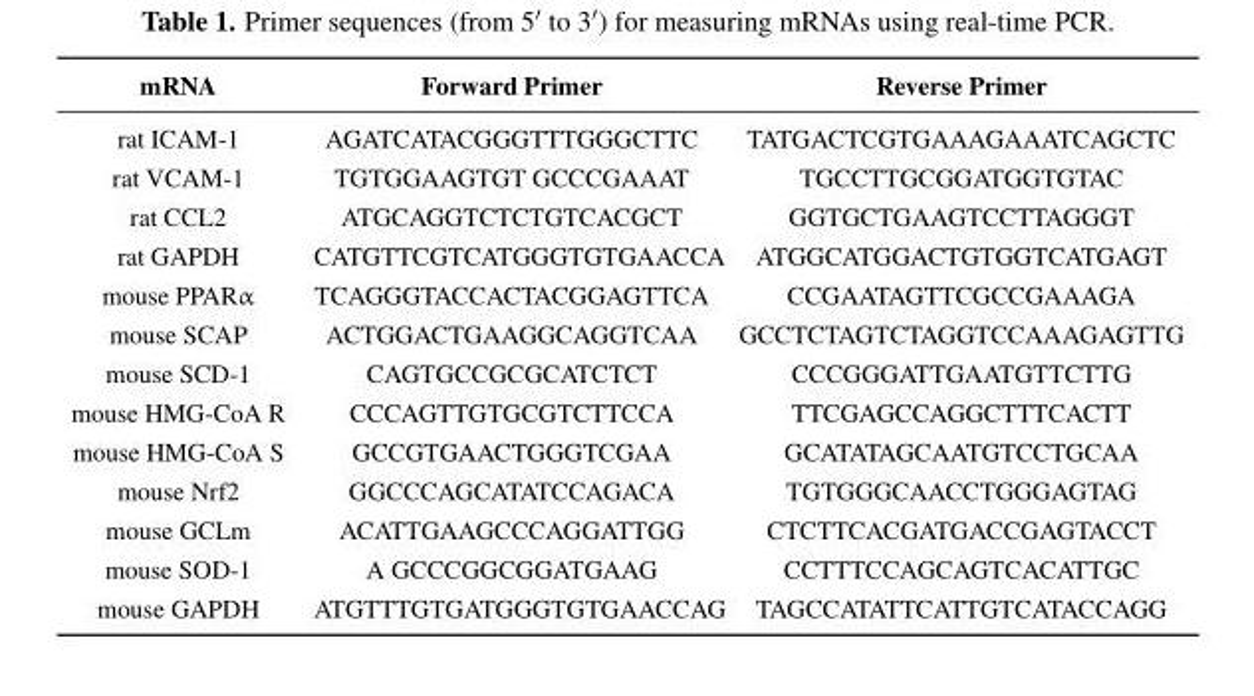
<table><thead><tr><td>mRNA</td><td>Forward Primer</td><td>Reverse Primer</td></tr></thead><tbody><tr><td>rat ICAM-1</td><td>AGATCATACGGGTTTGGGCTTC</td><td>TATGACTCGTGAAAGAAATCAGCTC</td></tr><tr><td>rat VCAM-1</td><td>TGTGGAAGTGT GCCCGAAAT</td><td>TGCCTTGCGGATGGTGTAC</td></tr><tr><td>rat CCL2</td><td>ATGCAGGTCTCTGTCACGCT</td><td>GGTGCTGAAGTCCTTAGGGT</td></tr><tr><td>rat GAPDH</td><td>CATGTTCGTCATGGGTGTGAACCA</td><td>ATGGCATGGACTGTGGTCATGAGT</td></tr><tr><td>mouse PPARα</td><td>TCAGGGTACCACTACGGAGTTCA</td><td>CCGAATAGTTCGCCGAAAGA</td></tr><tr><td>mouse SCAP</td><td>ACTGGACTGAAGGCAGGTCAA</td><td>GCCTCTAGTCTAGGTCCAAAGAGTTG</td></tr><tr><td>mouse SCD-1</td><td>CAGTGCCGCGCATCTCT</td><td>CCCGGGATTGAATGTTCTTG</td></tr><tr><td>mouse HMG-CoA R</td><td>CCCAGTTGTGCGTCTTCCA</td><td>TTCGAGCCAGGCTTTCACTT</td></tr><tr><td>mouse HMG-CoA S</td><td>GCCGTGAACTGGGTCGAA</td><td>GCATATAGCAATGTCCTGCAA</td></tr><tr><td>mouse Nrf2</td><td>GGCCCAGCATATCCAGACA</td><td>TGTGGGCAACCTGGGAGTAG</td></tr><tr><td>mouse GCLm</td><td>ACATTGAAGCCCAGGATTGG</td><td>CTCTTCACGATGACCGAGTACCT</td></tr><tr><td>mouse SOD-1</td><td>A GCCCGGCGGATGAAG</td><td>CCTTTCCAGCAGTCACATTGC</td></tr><tr><td>mouse GAPDH</td><td>ATGTTTGTGATGGGTGTGAACCAG</td><td>TAGCCATATTCATTGTCATACCAGG</td></tr></tbody></table>